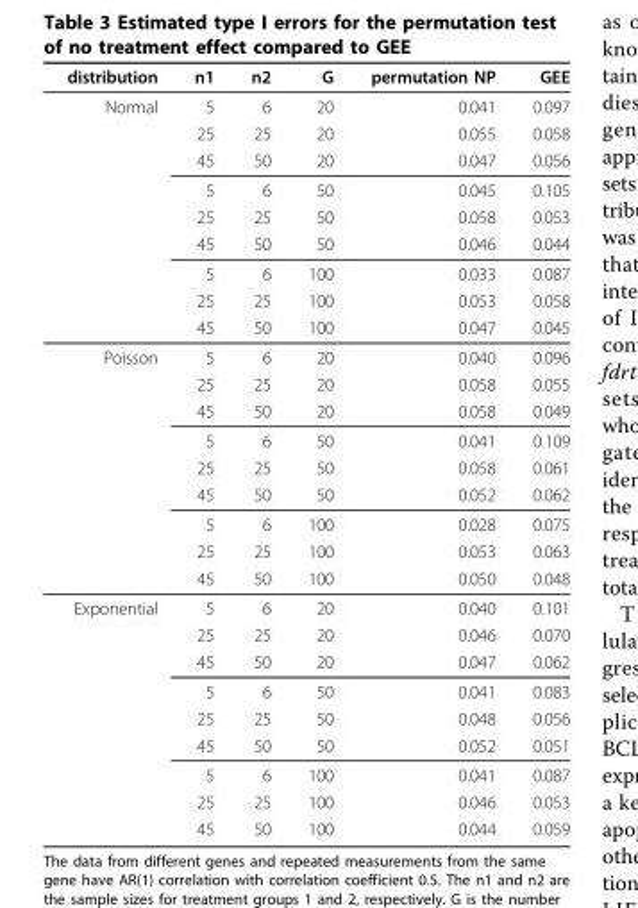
<table><thead><tr><td>distribution</td><td>n1</td><td>n2</td><td>G</td><td>permutation NP</td><td>GEE</td></tr></thead><tbody><tr><td rowspan="9">Normal</td><td>5</td><td>6</td><td>20</td><td>0.041</td><td>0.097</td></tr><tr><td>25</td><td>25</td><td>20</td><td>0.055</td><td>0.058</td></tr><tr><td>45</td><td>50</td><td>20</td><td>0.047</td><td>0.056</td></tr><tr><td>5</td><td>6</td><td>50</td><td>0.045</td><td>0.105</td></tr><tr><td>25</td><td>25</td><td>50</td><td>0.058</td><td>0.053</td></tr><tr><td>45</td><td>50</td><td>50</td><td>0.046</td><td>0.044</td></tr><tr><td>5</td><td>6</td><td>100</td><td>0.033</td><td>0.087</td></tr><tr><td>25</td><td>25</td><td>100</td><td>0.053</td><td>0.058</td></tr><tr><td>45</td><td>50</td><td>100</td><td>0.047</td><td>0.045</td></tr><tr><td rowspan="9">Poisson</td><td>5</td><td>6</td><td>20</td><td>0.040</td><td>0.096</td></tr><tr><td>25</td><td>25</td><td>20</td><td>0.058</td><td>0.055</td></tr><tr><td>45</td><td>50</td><td>20</td><td>0.058</td><td>0.049</td></tr><tr><td>5</td><td>6</td><td>50</td><td>0.041</td><td>0.109</td></tr><tr><td>25</td><td>25</td><td>50</td><td>0.058</td><td>0.061</td></tr><tr><td>45</td><td>50</td><td>50</td><td>0.052</td><td>0.062</td></tr><tr><td>5</td><td>6</td><td>100</td><td>0.028</td><td>0.075</td></tr><tr><td>25</td><td>25</td><td>100</td><td>0.053</td><td>0.063</td></tr><tr><td>45</td><td>50</td><td>100</td><td>0.050</td><td>0.048</td></tr><tr><td rowspan="9">Exponential</td><td>5</td><td>6</td><td>20</td><td>0.040</td><td>0.101</td></tr><tr><td>25</td><td>25</td><td>20</td><td>0.046</td><td>0.070</td></tr><tr><td>45</td><td>50</td><td>20</td><td>0.047</td><td>0.062</td></tr><tr><td>5</td><td>6</td><td>50</td><td>0.041</td><td>0.083</td></tr><tr><td>25</td><td>25</td><td>50</td><td>0.048</td><td>0.056</td></tr><tr><td>45</td><td>50</td><td>50</td><td>0.052</td><td>0.051</td></tr><tr><td>5</td><td>6</td><td>100</td><td>0.041</td><td>0.087</td></tr><tr><td>25</td><td>25</td><td>100</td><td>0.046</td><td>0.053</td></tr><tr><td>45</td><td>50</td><td>100</td><td>0.044</td><td>0.059</td></tr></tbody></table>